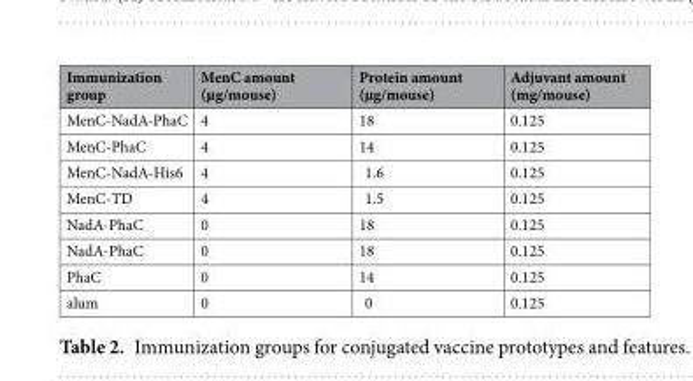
<table><thead><tr><td>Immunization group</td><td>MenC amount (µg/mouse)</td><td>Protein amount (µg/mouse)</td><td>Adjuvant amount (mg/mouse)</td></tr></thead><tbody><tr><td>MenC-NadA-PhaC</td><td>4</td><td>18</td><td>0.125</td></tr><tr><td>MenC-PhaC</td><td>4</td><td>14</td><td>0.125</td></tr><tr><td>MenC-NadA-His6</td><td>4</td><td>1.6</td><td>0.125</td></tr><tr><td>MenC-TD</td><td>4</td><td>1.5</td><td>0.125</td></tr><tr><td>NadA-PhaC</td><td>0</td><td>18</td><td>0.125</td></tr><tr><td>NadA-PhaC</td><td>0</td><td>18</td><td>0.125</td></tr><tr><td>PhaC</td><td>0</td><td>14</td><td>0.125</td></tr><tr><td>alum</td><td>0</td><td>0</td><td>0.125</td></tr></tbody></table>